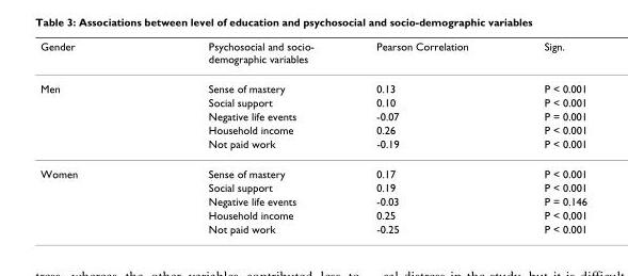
<table><thead><tr><td>Gender</td><td>Psychosocial and socio- demographic variables</td><td>Pearson Correlation</td><td>Sign.</td></tr></thead><tbody><tr><td rowspan="5">Men</td><td>Sense of mastery</td><td>0.13</td><td>P &lt; 0.001</td></tr><tr><td>Social support</td><td>0.10</td><td>P &lt; 0.001</td></tr><tr><td>Negative life events</td><td>-0.07</td><td>P = 0.001</td></tr><tr><td>Household income</td><td>0.26</td><td>P &lt; 0.001</td></tr><tr><td>Not paid work</td><td>-0.19</td><td>P &lt; 0.001</td></tr><tr><td rowspan="5">Women</td><td>Sense of mastery</td><td>0.17</td><td>P &lt; 0.001</td></tr><tr><td>Social support</td><td>0.19</td><td>P &lt; 0.001</td></tr><tr><td>Negative life events</td><td>-0.03</td><td>P = 0.146</td></tr><tr><td>Household income</td><td>0.25</td><td>P &lt; 0,001</td></tr><tr><td>Not paid work</td><td>-0.25</td><td>P &lt; 0.001</td></tr></tbody></table>